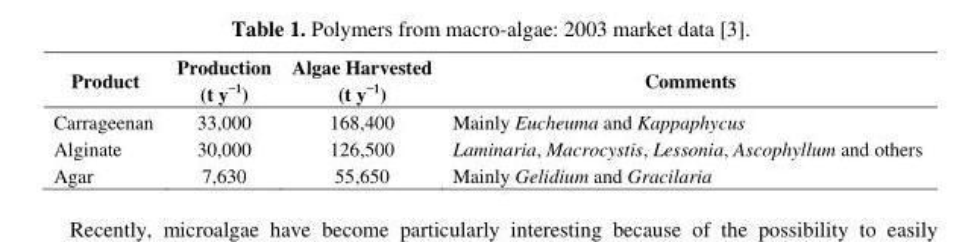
<table><thead><tr><td>Product</td><td>Production (t y<sup>−1</sup>)</td><td>Algae Harvested (t y<sup>−1</sup>)</td><td>Comments</td></tr></thead><tbody><tr><td>Carrageenan</td><td>33,000</td><td>168,400</td><td>Mainly Eucheuma and Kappaphycus</td></tr><tr><td>Alginate</td><td>30,000</td><td>126,500</td><td>Laminaria, Macrocystis, Lessonia, Ascophyllum and others</td></tr><tr><td>Agar</td><td>7,630</td><td>55,650</td><td>Mainly Gelidium and Gracilaria</td></tr></tbody></table>